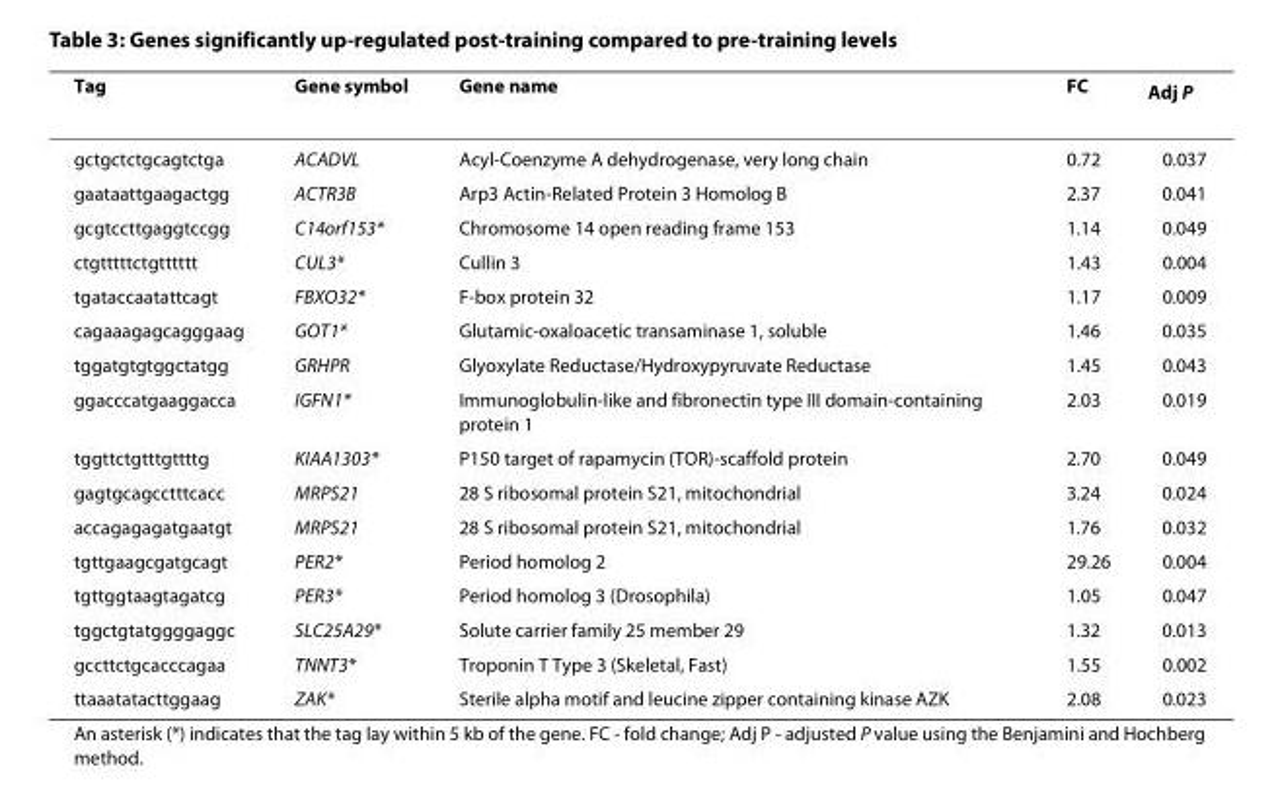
<table><thead><tr><td>Tag</td><td>Gene symbol</td><td>Gene name</td><td>FC</td><td>Adj P</td></tr></thead><tbody><tr><td>gctgctctgcagtctga</td><td>ACADVL</td><td>Acyl-Coenzyme A dehydrogenase, very long chain</td><td>0.72</td><td>0.037</td></tr><tr><td>gaataattgaagactgg</td><td>ACTR3B</td><td>Arp3 Actin-Related Protein 3 Homolog B</td><td>2.37</td><td>0.041</td></tr><tr><td>gcgtccttgaggtccgg</td><td>C14orf153*</td><td>Chromosome 14 open reading frame 153</td><td>1.14</td><td>0.049</td></tr><tr><td>ctgtttttctgtttttt</td><td>CUL3*</td><td>Cullin 3</td><td>1.43</td><td>0.004</td></tr><tr><td>tgataccaatattcagt</td><td>FBXO32*</td><td>F-box protein 32</td><td>1.17</td><td>0.009</td></tr><tr><td>cagaaagagcagggaag</td><td>GOT1*</td><td>Glutamic-oxaloacetic transaminase 1, soluble</td><td>1.46</td><td>0.035</td></tr><tr><td>tggatgtgtggctatgg</td><td>GRHPR</td><td>Glyoxylate Reductase/Hydroxypyruvate Reductase</td><td>1.45</td><td>0.043</td></tr><tr><td>ggacccatgaaggacca</td><td>IGFN1*</td><td>Immunoglobulin-like and fibronectin type III domain-containing protein 1</td><td>2.03</td><td>0.019</td></tr><tr><td>tggttctgtttgttttg</td><td>KIAA1303*</td><td>P150 target of rapamycin (TOR)-scaffold protein</td><td>2.70</td><td>0.049</td></tr><tr><td>gagtgcagcctttcacc</td><td>MRPS21</td><td>28 S ribosomal protein S21, mitochondrial</td><td>3.24</td><td>0.024</td></tr><tr><td>accagagagatgaatgt</td><td>MRPS21</td><td>28 S ribosomal protein S21, mitochondrial</td><td>1.76</td><td>0.032</td></tr><tr><td>tgttgaagcgatgcagt</td><td>PER2*</td><td>Period homolog 2</td><td>29.26</td><td>0.004</td></tr><tr><td>tgttggtaagtagatcg</td><td>PER3*</td><td>Period homolog 3 (Drosophila)</td><td>1.05</td><td>0.047</td></tr><tr><td>tggctgtatggggaggc</td><td>SLC25A29*</td><td>Solute carrier family 25 member 29</td><td>1.32</td><td>0.013</td></tr><tr><td>gccttctgcacccagaa</td><td>TNNT3*</td><td>Troponin T Type 3 (Skeletal, Fast)</td><td>1.55</td><td>0.002</td></tr><tr><td>ttaaatatacttggaag</td><td>ZAK*</td><td>Sterile alpha motif and leucine zipper containing kinase AZK</td><td>2.08</td><td>0.023</td></tr></tbody></table>